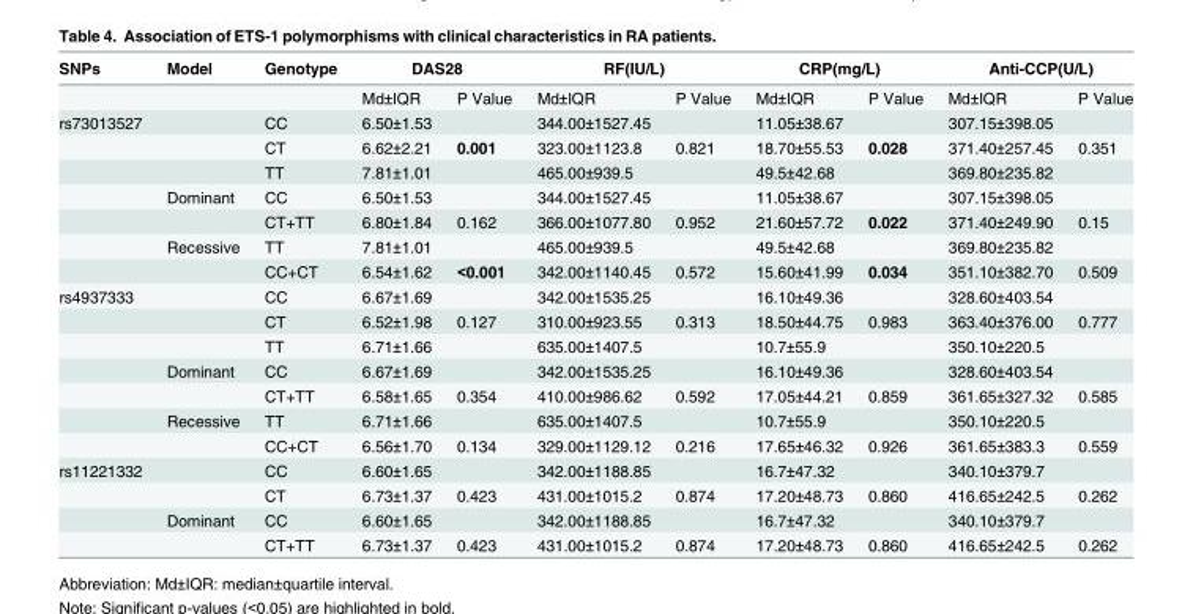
<table><thead><tr><td rowspan="2">SNPs</td><td rowspan="2">Model</td><td rowspan="2">Genotype</td><td colspan="2">DAS28</td><td colspan="2">RF(IU/L)</td><td colspan="2">CRP(mg/L)</td><td colspan="2">Anti-CCP(U/L)</td></tr><tr><td>Md±IQR</td><td>P Value</td><td>Md±IQR</td><td>P Value</td><td>Md±IQR</td><td>P Value</td><td>Md±IQR</td><td>P Value</td></tr></thead><tbody><tr><td rowspan="7">rs73013527</td><td></td><td>CC</td><td>6.50±1.53</td><td></td><td>344.00±1527.45</td><td></td><td>11.05±38.67</td><td></td><td>307.15±398.05</td><td></td></tr><tr><td></td><td>CT</td><td>6.62±2.21</td><td>0.001</td><td>323.00±1123.8</td><td>0.821</td><td>18.70±55.53</td><td>0.028</td><td>371.40±257.45</td><td>0.351</td></tr><tr><td></td><td>TT</td><td>7.81±1.01</td><td></td><td>465.00±939.5</td><td></td><td>49.5±42.68</td><td></td><td>369.80±235.82</td><td></td></tr><tr><td>Dominant</td><td>CC</td><td>6.50±1.53</td><td></td><td>344.00±1527.45</td><td></td><td>11.05±38.67</td><td></td><td>307.15±398.05</td><td></td></tr><tr><td></td><td>CT+TT</td><td>6.80±1.84</td><td>0.162</td><td>366.00±1077.80</td><td>0.952</td><td>21.60±57.72</td><td>0.022</td><td>371.40±249.90</td><td>0.15</td></tr><tr><td>Recessive</td><td>TT</td><td>7.81±1.01</td><td></td><td>465.00±939.5</td><td></td><td>49.5±42.68</td><td></td><td>369.80±235.82</td><td></td></tr><tr><td></td><td>CC+CT</td><td>6.54±1.62</td><td>&lt;0.001</td><td>342.00±1140.45</td><td>0.572</td><td>15.60±41.99</td><td>0.034</td><td>351.10±382.70</td><td>0.509</td></tr><tr><td rowspan="7">rs4937333</td><td></td><td>CC</td><td>6.67±1.69</td><td></td><td>342.00±1535.25</td><td></td><td>16.10±49.36</td><td></td><td>328.60±403.54</td><td></td></tr><tr><td></td><td>CT</td><td>6.52±1.98</td><td>0.127</td><td>310.00±923.55</td><td>0.313</td><td>18.50±44.75</td><td>0.983</td><td>363.40±376.00</td><td>0.777</td></tr><tr><td></td><td>TT</td><td>6.71±1.66</td><td></td><td>635.00±1407.5</td><td></td><td>10.7±55.9</td><td></td><td>350.10±220.5</td><td></td></tr><tr><td>Dominant</td><td>CC</td><td>6.67±1.69</td><td></td><td>342.00±1535.25</td><td></td><td>16.10±49.36</td><td></td><td>328.60±403.54</td><td></td></tr><tr><td></td><td>CT+TT</td><td>6.58±1.65</td><td>0.354</td><td>410.00±986.62</td><td>0.592</td><td>17.05±44.21</td><td>0.859</td><td>361.65±327.32</td><td>0.585</td></tr><tr><td>Recessive</td><td>TT</td><td>6.71±1.66</td><td></td><td>635.00±1407.5</td><td></td><td>10.7±55.9</td><td></td><td>350.10±220.5</td><td></td></tr><tr><td></td><td>CC+CT</td><td>6.56±1.70</td><td>0.134</td><td>329.00±1129.12</td><td>0.216</td><td>17.65±46.32</td><td>0.926</td><td>361.65±383.3</td><td>0.559</td></tr><tr><td rowspan="4">rs11221332</td><td></td><td>CC</td><td>6.60±1.65</td><td></td><td>342.00±1188.85</td><td></td><td>16.7±47.32</td><td></td><td>340.10±379.7</td><td></td></tr><tr><td></td><td>CT</td><td>6.73±1.37</td><td>0.423</td><td>431.00±1015.2</td><td>0.874</td><td>17.20±48.73</td><td>0.860</td><td>416.65±242.5</td><td>0.262</td></tr><tr><td>Dominant</td><td>CC</td><td>6.60±1.65</td><td></td><td>342.00±1188.85</td><td></td><td>16.7±47.32</td><td></td><td>340.10±379.7</td><td></td></tr><tr><td></td><td>CT+TT</td><td>6.73±1.37</td><td>0.423</td><td>431.00±1015.2</td><td>0.874</td><td>17.20±48.73</td><td>0.860</td><td>416.65±242.5</td><td>0.262</td></tr></tbody></table>